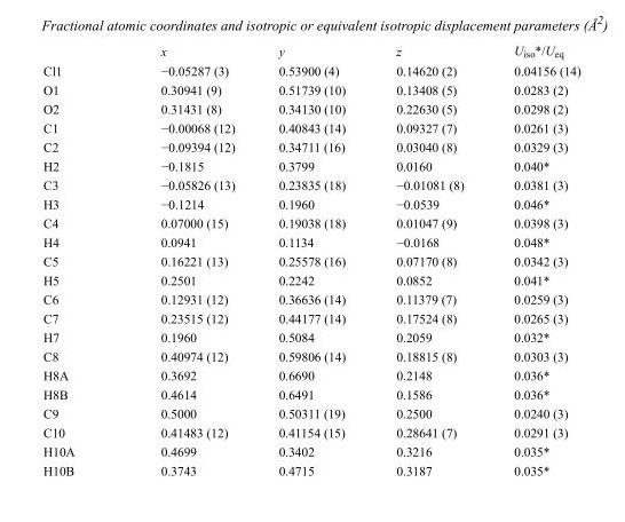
<table><thead><tr><td></td><td>x</td><td>y</td><td>z</td><td>U<sub>iso</sub>*/U<sub>eq</sub></td></tr></thead><tbody><tr><td>Cl1</td><td>−0.05287 (3)</td><td>0.53900 (4)</td><td>0.14620 (2)</td><td>0.04156 (14)</td></tr><tr><td>O1</td><td>0.30941 (9)</td><td>0.51739 (10)</td><td>0.13408 (5)</td><td>0.0283 (2)</td></tr><tr><td>O2</td><td>0.31431 (8)</td><td>0.34130 (10)</td><td>0.22630 (5)</td><td>0.0298 (2)</td></tr><tr><td>C1</td><td>−0.00068 (12)</td><td>0.40843 (14)</td><td>0.09327 (7)</td><td>0.0261 (3)</td></tr><tr><td>C2</td><td>−0.09394 (12)</td><td>0.34711 (16)</td><td>0.03040 (8)</td><td>0.0329 (3)</td></tr><tr><td>H2</td><td>−0.1815</td><td>0.3799</td><td>0.0160</td><td>0.040*</td></tr><tr><td>C3</td><td>−0.05826 (13)</td><td>0.23835 (18)</td><td>−0.01081 (8)</td><td>0.0381 (3)</td></tr><tr><td>H3</td><td>−0.1214</td><td>0.1960</td><td>−0.0539</td><td>0.046*</td></tr><tr><td>C4</td><td>0.07000 (15)</td><td>0.19038 (18)</td><td>0.01047 (9)</td><td>0.0398 (3)</td></tr><tr><td>H4</td><td>0.0941</td><td>0.1134</td><td>−0.0168</td><td>0.048*</td></tr><tr><td>C5</td><td>0.16221 (13)</td><td>0.25578 (16)</td><td>0.07170 (8)</td><td>0.0342 (3)</td></tr><tr><td>H5</td><td>0.2501</td><td>0.2242</td><td>0.0852</td><td>0.041*</td></tr><tr><td>C6</td><td>0.12931 (12)</td><td>0.36636 (14)</td><td>0.11379 (7)</td><td>0.0259 (3)</td></tr><tr><td>C7</td><td>0.23515 (12)</td><td>0.44177 (14)</td><td>0.17524 (8)</td><td>0.0265 (3)</td></tr><tr><td>H7</td><td>0.1960</td><td>0.5084</td><td>0.2059</td><td>0.032*</td></tr><tr><td>C8</td><td>0.40974 (12)</td><td>0.59806 (14)</td><td>0.18815 (8)</td><td>0.0303 (3)</td></tr><tr><td>H8A</td><td>0.3692</td><td>0.6690</td><td>0.2148</td><td>0.036*</td></tr><tr><td>H8B</td><td>0.4614</td><td>0.6491</td><td>0.1586</td><td>0.036*</td></tr><tr><td>C9</td><td>0.5000</td><td>0.50311 (19)</td><td>0.2500</td><td>0.0240 (3)</td></tr><tr><td>C10</td><td>0.41483 (12)</td><td>0.41154 (15)</td><td>0.28641 (7)</td><td>0.0291 (3)</td></tr><tr><td>H10A</td><td>0.4699</td><td>0.3402</td><td>0.3216</td><td>0.035*</td></tr><tr><td>H10B</td><td>0.3743</td><td>0.4715</td><td>0.3187</td><td>0.035*</td></tr></tbody></table>